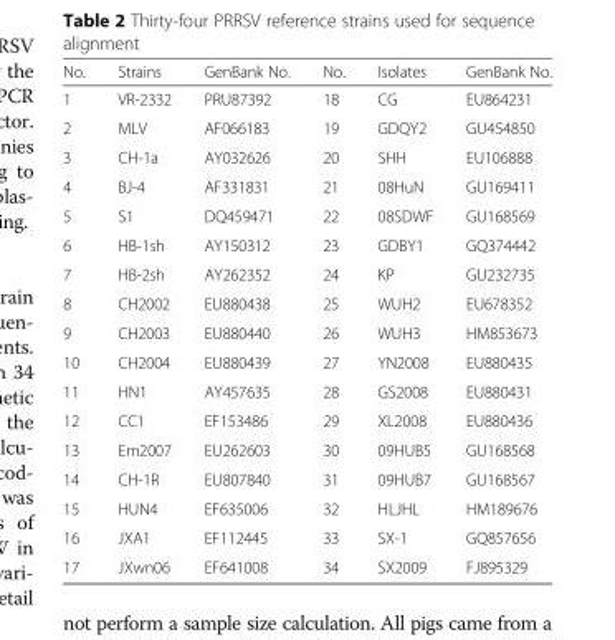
<table><thead><tr><td>No.</td><td>Strains</td><td>GenBank No.</td><td>No.</td><td>Isolates</td><td>GenBank No.</td></tr></thead><tbody><tr><td>1</td><td>VR-2332</td><td>PRU87392</td><td>18</td><td>CG</td><td>EU864231</td></tr><tr><td>2</td><td>MLV</td><td>AF066183</td><td>19</td><td>GDQY2</td><td>GU454850</td></tr><tr><td>3</td><td>CH-1a</td><td>AY032626</td><td>20</td><td>SHH</td><td>EU106888</td></tr><tr><td>4</td><td>BJ-4</td><td>AF331831</td><td>21</td><td>08HuN</td><td>GU169411</td></tr><tr><td>5</td><td>S1</td><td>DQ459471</td><td>22</td><td>08SDWF</td><td>GU168569</td></tr><tr><td>6</td><td>HB-1sh</td><td>AY150312</td><td>23</td><td>GDBY1</td><td>GQ374442</td></tr><tr><td>7</td><td>HB-2sh</td><td>AY262352</td><td>24</td><td>KP</td><td>GU232735</td></tr><tr><td>8</td><td>CH2002</td><td>EU880438</td><td>25</td><td>WUH2</td><td>EU678352</td></tr><tr><td>9</td><td>CH2003</td><td>EU880440</td><td>26</td><td>WUH3</td><td>HM853673</td></tr><tr><td>10</td><td>CH2004</td><td>EU880439</td><td>27</td><td>YN2008</td><td>EU880435</td></tr><tr><td>11</td><td>HN1</td><td>AY457635</td><td>28</td><td>GS2008</td><td>EU880431</td></tr><tr><td>12</td><td>CC1</td><td>EF153486</td><td>29</td><td>XL2008</td><td>EU880436</td></tr><tr><td>13</td><td>Em2007</td><td>EU262603</td><td>30</td><td>09HUB5</td><td>GU168568</td></tr><tr><td>14</td><td>CH-1R</td><td>EU807840</td><td>31</td><td>09HUB7</td><td>GU168567</td></tr><tr><td>15</td><td>HUN4</td><td>EF635006</td><td>32</td><td>HLJHL</td><td>HM189676</td></tr><tr><td>16</td><td>JXA1</td><td>EF112445</td><td>33</td><td>SX-1</td><td>GQ857656</td></tr><tr><td>17</td><td>JXwn06</td><td>EF641008</td><td>34</td><td>SX2009</td><td>FJ895329</td></tr></tbody></table>